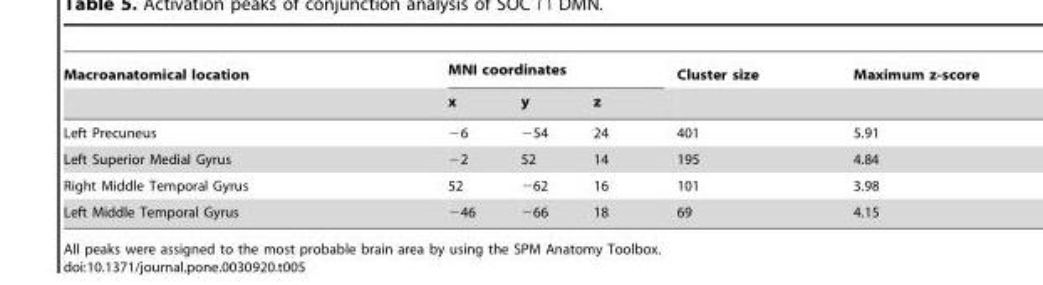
<table><thead><tr><td rowspan="2">Macroanatomical location</td><td colspan="3">MNI coordinates</td><td rowspan="2">Cluster size</td><td rowspan="2">Maximum z-score</td></tr><tr><td>x</td><td>y</td><td>z</td></tr></thead><tbody><tr><td>Left Precuneus</td><td>−6</td><td>−54</td><td>24</td><td>401</td><td>5.91</td></tr><tr><td>Left Superior Medial Gyrus</td><td>−2</td><td>52</td><td>14</td><td>195</td><td>4.84</td></tr><tr><td>Right Middle Temporal Gyrus</td><td>52</td><td>−62</td><td>16</td><td>101</td><td>3.98</td></tr><tr><td>Left Middle Temporal Gyrus</td><td>−46</td><td>−66</td><td>18</td><td>69</td><td>4.15</td></tr></tbody></table>